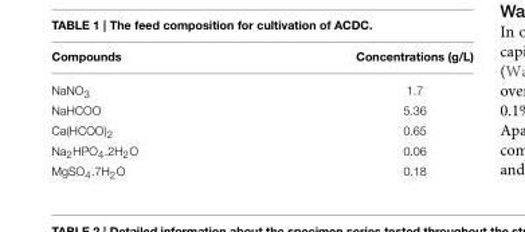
<table><thead><tr><td>Compounds</td><td>Concentrations (g/L)</td></tr></thead><tbody><tr><td>NaNO<sub>3</sub></td><td>1.7</td></tr><tr><td>NaHCOO</td><td>5.36</td></tr><tr><td>Ca(HCOO)<sub>2</sub></td><td>0.65</td></tr><tr><td>Na<sub>2</sub>HPO<sub>4</sub>.2H<sub>2</sub>O</td><td>0.06</td></tr><tr><td>MgSO<sub>4</sub>.7H<sub>2</sub>O</td><td>0.18</td></tr></tbody></table>